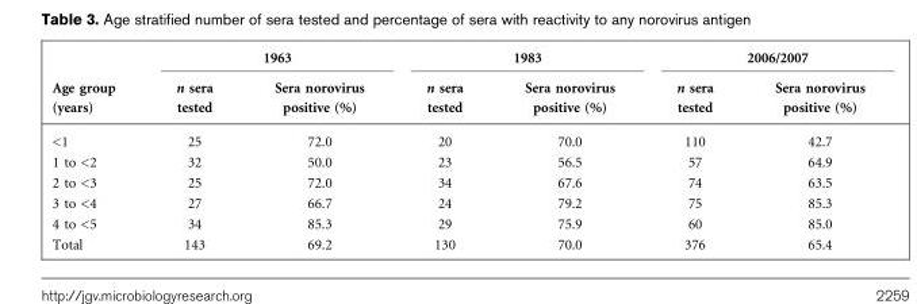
<table><thead><tr><td rowspan="2">Age group (years)</td><td colspan="2">1963</td><td colspan="2">1983</td><td colspan="2">2006/2007</td></tr><tr><td>n sera tested</td><td>Sera norovirus positive (%)</td><td>n sera tested</td><td>Sera norovirus positive (%)</td><td>n sera tested</td><td>Sera norovirus positive (%)</td></tr></thead><tbody><tr><td>&lt;1</td><td>25</td><td>72.0</td><td>20</td><td>70.0</td><td>110</td><td>42.7</td></tr><tr><td>1 to &lt;2</td><td>32</td><td>50.0</td><td>23</td><td>56.5</td><td>57</td><td>64.9</td></tr><tr><td>2 to &lt;3</td><td>25</td><td>72.0</td><td>34</td><td>67.6</td><td>74</td><td>63.5</td></tr><tr><td>3 to &lt;4</td><td>27</td><td>66.7</td><td>24</td><td>79.2</td><td>75</td><td>85.3</td></tr><tr><td>4 to &lt;5</td><td>34</td><td>85.3</td><td>29</td><td>75.9</td><td>60</td><td>85.0</td></tr><tr><td>Total</td><td>143</td><td>69.2</td><td>130</td><td>70.0</td><td>376</td><td>65.4</td></tr></tbody></table>